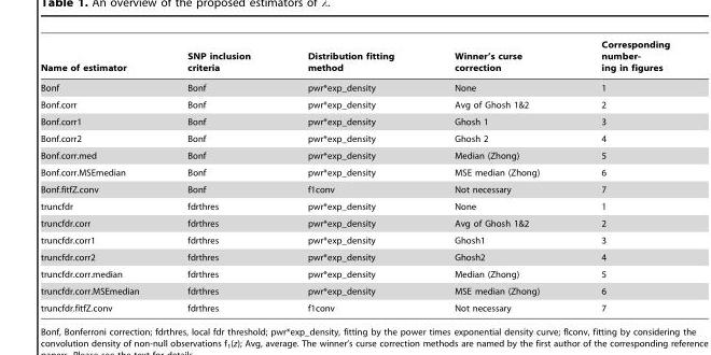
<table><thead><tr><td>Name of estimator</td><td>SNP inclusion criteria</td><td>Distribution fitting method</td><td>Winner’s curse correction</td><td>Corresponding number- ing in figures</td></tr></thead><tbody><tr><td>Bonf</td><td>Bonf</td><td>pwr*exp_density</td><td>None</td><td>1</td></tr><tr><td>Bonf.corr</td><td>Bonf</td><td>pwr*exp_density</td><td>Avg of Ghosh 1&amp;2</td><td>2</td></tr><tr><td>Bonf.corr1</td><td>Bonf</td><td>pwr*exp_density</td><td>Ghosh 1</td><td>3</td></tr><tr><td>Bonf.corr2</td><td>Bonf</td><td>pwr*exp_density</td><td>Ghosh 2</td><td>4</td></tr><tr><td>Bonf.corr.med</td><td>Bonf</td><td>pwr*exp_density</td><td>Median (Zhong)</td><td>5</td></tr><tr><td>Bonf.corr.MSEmedian</td><td>Bonf</td><td>pwr*exp_density</td><td>MSE median (Zhong)</td><td>6</td></tr><tr><td>Bonf.fitfZ.conv</td><td>Bonf</td><td>f1conv</td><td>Not necessary</td><td>7</td></tr><tr><td>truncfdr</td><td>fdrthres</td><td>pwr*exp_density</td><td>None</td><td>1</td></tr><tr><td>truncfdr.corr</td><td>fdrthres</td><td>pwr*exp_density</td><td>Avg of Ghosh 1&amp;2</td><td>2</td></tr><tr><td>truncfdr.corr1</td><td>fdrthres</td><td>pwr*exp_density</td><td>Ghosh1</td><td>3</td></tr><tr><td>truncfdr.corr2</td><td>fdrthres</td><td>pwr*exp_density</td><td>Ghosh2</td><td>4</td></tr><tr><td>truncfdr.corr.median</td><td>fdrthres</td><td>pwr*exp_density</td><td>Median (Zhong)</td><td>5</td></tr><tr><td>truncfdr.corr.MSEmedian</td><td>fdrthres</td><td>pwr*exp_density</td><td>MSE median (Zhong)</td><td>6</td></tr><tr><td>truncfdr.fitfZ.conv</td><td>fdrthres</td><td>f1conv</td><td>Not necessary</td><td>7</td></tr></tbody></table>